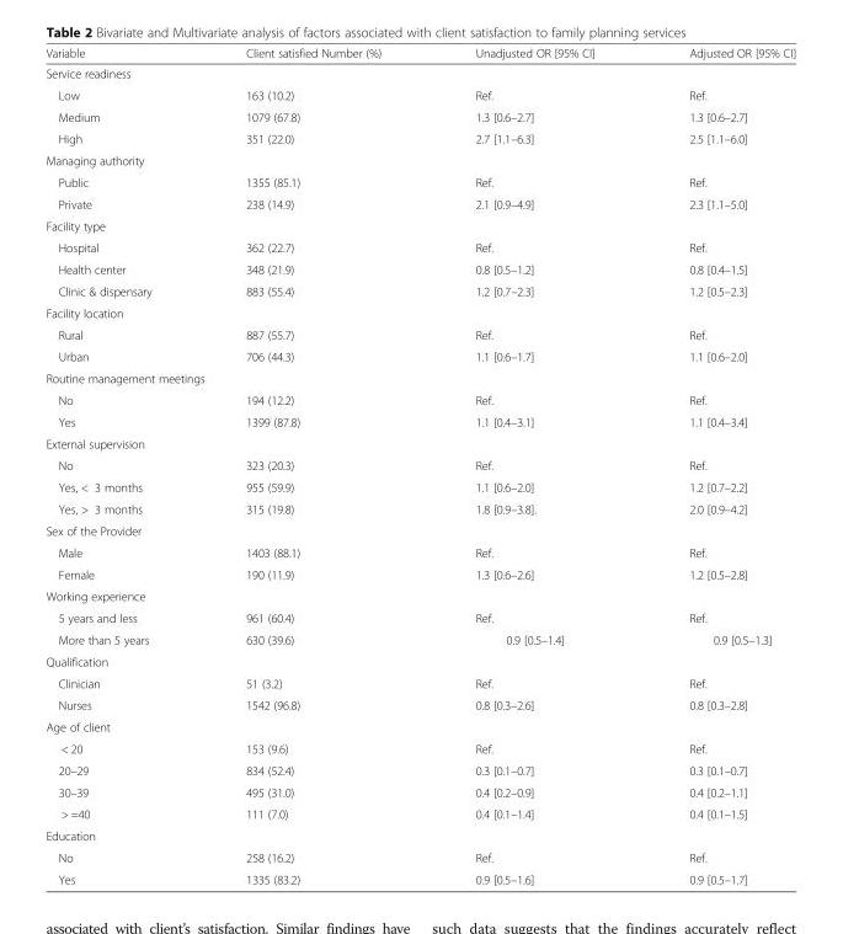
<table><thead><tr><td>Variable</td><td>Client satisfied Number (%)</td><td>Unadjusted OR [95% CI]</td><td>Adjusted OR [95% CI]</td></tr></thead><tbody><tr><td colspan="4">Service readiness</td></tr><tr><td>Low</td><td>163 (10.2)</td><td>Ref.</td><td>Ref.</td></tr><tr><td>Medium</td><td>1079 (67.8)</td><td>1.3 [0.6–2.7]</td><td>1.3 [0.6–2.7]</td></tr><tr><td>High</td><td>351 (22.0)</td><td>2.7 [1.1–6.3]</td><td>2.5 [1.1–6.0]</td></tr><tr><td colspan="4">Managing authority</td></tr><tr><td>Public</td><td>1355 (85.1)</td><td>Ref.</td><td>Ref.</td></tr><tr><td>Private</td><td>238 (14.9)</td><td>2.1 [0.9–4.9]</td><td>2.3 [1.1–5.0]</td></tr><tr><td colspan="4">Facility type</td></tr><tr><td>Hospital</td><td>362 (22.7)</td><td>Ref.</td><td>Ref.</td></tr><tr><td>Health center</td><td>348 (21.9)</td><td>0.8 [0.5–1.2]</td><td>0.8 [0.4–1.5]</td></tr><tr><td>Clinic &amp; dispensary</td><td>883 (55.4)</td><td>1.2 [0.7–2.3]</td><td>1.2 [0.5–2.3]</td></tr><tr><td colspan="4">Facility location</td></tr><tr><td>Rural</td><td>887 (55.7)</td><td>Ref.</td><td>Ref.</td></tr><tr><td>Urban</td><td>706 (44.3)</td><td>1.1 [0.6–1.7]</td><td>1.1 [0.6–2.0]</td></tr><tr><td colspan="4">Routine management meetings</td></tr><tr><td>No</td><td>194 (12.2)</td><td>Ref.</td><td>Ref.</td></tr><tr><td>Yes</td><td>1399 (87.8)</td><td>1.1 [0.4–3.1]</td><td>1.1 [0.4–3.4]</td></tr><tr><td colspan="4">External supervision</td></tr><tr><td>No</td><td>323 (20.3)</td><td>Ref.</td><td>Ref.</td></tr><tr><td>Yes, &lt; 3 months</td><td>955 (59.9)</td><td>1.1 [0.6–2.0]</td><td>1.2 [0.7–2.2]</td></tr><tr><td>Yes, &gt; 3 months</td><td>315 (19.8)</td><td>1.8 [0.9–3.8].</td><td>2.0 [0.9–4.2]</td></tr><tr><td colspan="4">Sex of the Provider</td></tr><tr><td>Male</td><td>1403 (88.1)</td><td>Ref.</td><td>Ref.</td></tr><tr><td>Female</td><td>190 (11.9)</td><td>1.3 [0.6–2.6]</td><td>1.2 [0.5–2.8]</td></tr><tr><td colspan="4">Working experience</td></tr><tr><td>5 years and less</td><td>961 (60.4)</td><td>Ref.</td><td>Ref.</td></tr><tr><td>More than 5 years</td><td>630 (39.6)</td><td>0.9 [0.5–1.4]</td><td>0.9 [0.5–1.3]</td></tr><tr><td colspan="4">Qualification</td></tr><tr><td>Clinician</td><td>51 (3.2)</td><td>Ref.</td><td>Ref.</td></tr><tr><td>Nurses</td><td>1542 (96.8)</td><td>0.8 [0.3–2.6]</td><td>0.8 [0.3–2.8]</td></tr><tr><td colspan="4">Age of client</td></tr><tr><td>&lt; 20</td><td>153 (9.6)</td><td>Ref.</td><td>Ref.</td></tr><tr><td>20–29</td><td>834 (52.4)</td><td>0.3 [0.1–0.7]</td><td>0.3 [0.1–0.7]</td></tr><tr><td>30–39</td><td>495 (31.0)</td><td>0.4 [0.2–0.9]</td><td>0.4 [0.2–1.1]</td></tr><tr><td>&gt; =40</td><td>111 (7.0)</td><td>0.4 [0.1–1.4]</td><td>0.4 [0.1–1.5]</td></tr><tr><td colspan="4">Education</td></tr><tr><td>No</td><td>258 (16.2)</td><td>Ref.</td><td>Ref.</td></tr><tr><td>Yes</td><td>1335 (83.2)</td><td>0.9 [0.5–1.6]</td><td>0.9 [0.5–1.7]</td></tr></tbody></table>